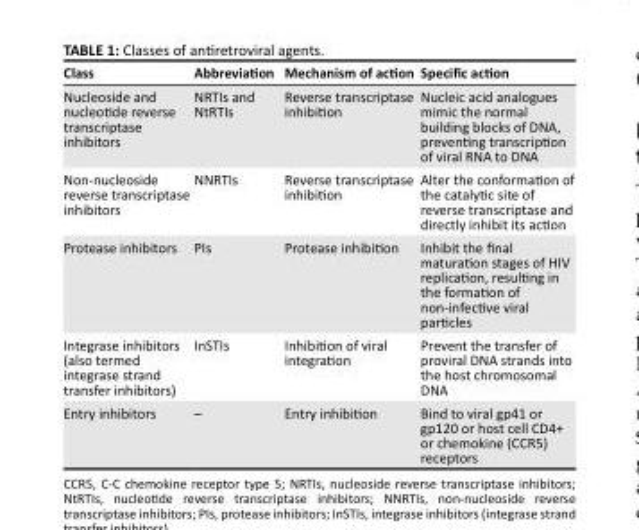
<table><thead><tr><td>Class</td><td>Abbreviation</td><td>Mechanism of action</td><td>Specific action</td></tr></thead><tbody><tr><td>Nucleoside and nucleotide reverse transcriptase inhibitors</td><td>NRTIs and NtRTIs</td><td>Reverse transcriptase inhibition</td><td>Nucleic acid analogues mimic the normal building blocks of DNA, preventing transcription of viral RNA to DNA</td></tr><tr><td>Non-nucleoside reverse transcriptase inhibitors</td><td>NNRTIs</td><td>Reverse transcriptase inhibition</td><td>Alter the conformation of the catalytic site of reverse transcriptase and directly inhibit its action</td></tr><tr><td>Protease inhibitors</td><td>PIs</td><td>Protease inhibition</td><td>Inhibit the final maturation stages of HIV replication, resulting in the formation of non-infective viral particles</td></tr><tr><td>Integrase inhibitors (also termed integrase strand transfer inhibitors)</td><td>InSTIs</td><td>Inhibition of viral integration</td><td>Prevent the transfer of proviral DNA strands into the host chromosomal DNA</td></tr><tr><td>Entry inhibitors</td><td>–</td><td>Entry inhibition</td><td>Bind to viral gp41 or gp120 or host cell CD4+ or chemokine (CCR5) receptors</td></tr></tbody></table>